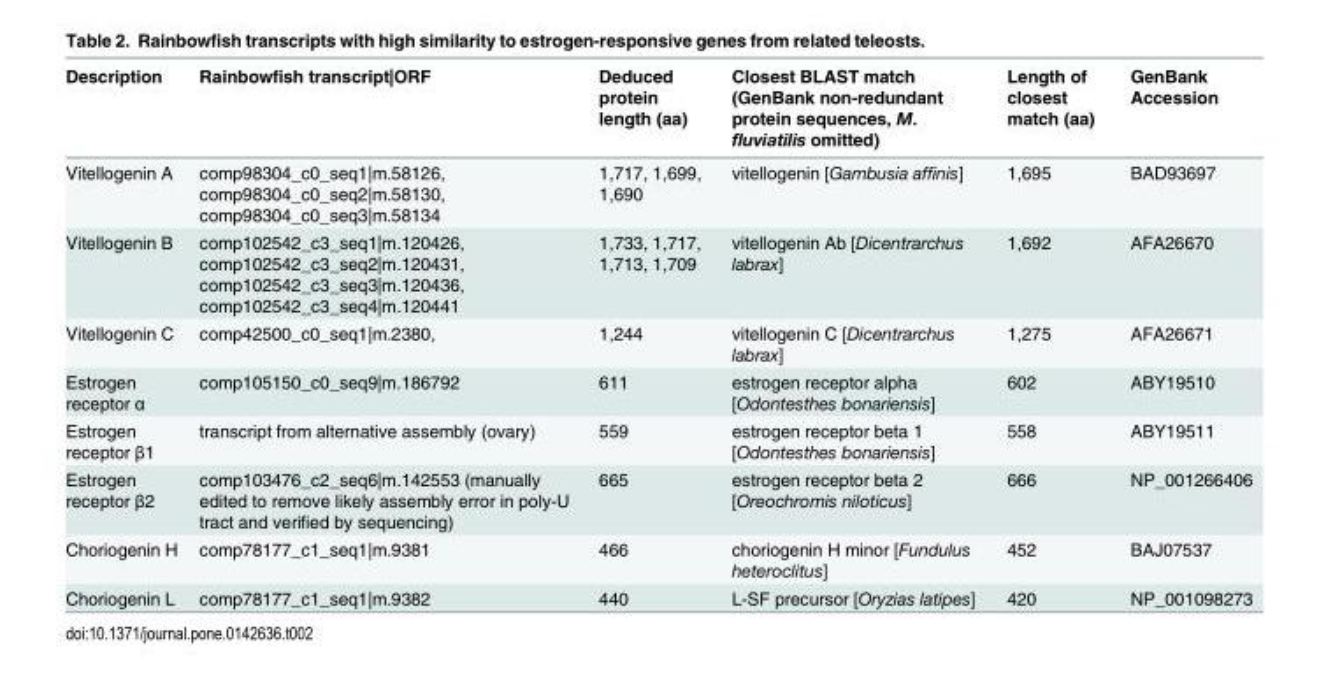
<table><thead><tr><td>Description</td><td>Rainbowfish transcript|ORF</td><td>Deduced protein length (aa)</td><td>Closest BLAST match (GenBank non-redundant protein sequences, M. fluviatilis omitted)</td><td>Length of closest match (aa)</td><td>GenBank Accession</td></tr></thead><tbody><tr><td>Vitellogenin A</td><td>comp98304_c0_seq1|m.58126, comp98304_c0_seq2|m.58130, comp98304_c0_seq3|m.58134</td><td>1,717, 1,699, 1,690</td><td>vitellogenin [Gambusia affinis]</td><td>1,695</td><td>BAD93697</td></tr><tr><td>Vitellogenin B</td><td>comp102542_c3_seq1|m.120426, comp102542_c3_seq2|m.120431, comp102542_c3_seq3|m.120436, comp102542_c3_seq4|m.120441</td><td>1,733, 1,717, 1,713, 1,709</td><td>vitellogenin Ab [Dicentrarchus labrax]</td><td>1,692</td><td>AFA26670</td></tr><tr><td>Vitellogenin C</td><td>comp42500_c0_seq1|m.2380,</td><td>1,244</td><td>vitellogenin C [Dicentrarchus labrax]</td><td>1,275</td><td>AFA26671</td></tr><tr><td>Estrogen receptor α</td><td>comp105150_c0_seq9|m.186792</td><td>611</td><td>estrogen receptor alpha [Odontesthes bonariensis]</td><td>602</td><td>ABY19510</td></tr><tr><td>Estrogen receptor β1</td><td>transcript from alternative assembly (ovary)</td><td>559</td><td>estrogen receptor beta 1 [Odontesthes bonariensis]</td><td>558</td><td>ABY19511</td></tr><tr><td>Estrogen receptor β2</td><td>comp103476_c2_seq6|m.142553 (manually edited to remove likely assembly error in poly-U tract and verified by sequencing)</td><td>665</td><td>estrogen receptor beta 2 [Oreochromis niloticus]</td><td>666</td><td>NP_001266406</td></tr><tr><td>Choriogenin H</td><td>comp78177_c1_seq1|m.9381</td><td>466</td><td>choriogenin H minor [Fundulus heteroclitus]</td><td>452</td><td>BAJ07537</td></tr><tr><td>Choriogenin L</td><td>comp78177_c1_seq1|m.9382</td><td>440</td><td>L-SF precursor [Oryzias latipes]</td><td>420</td><td>NP_001098273</td></tr></tbody></table>